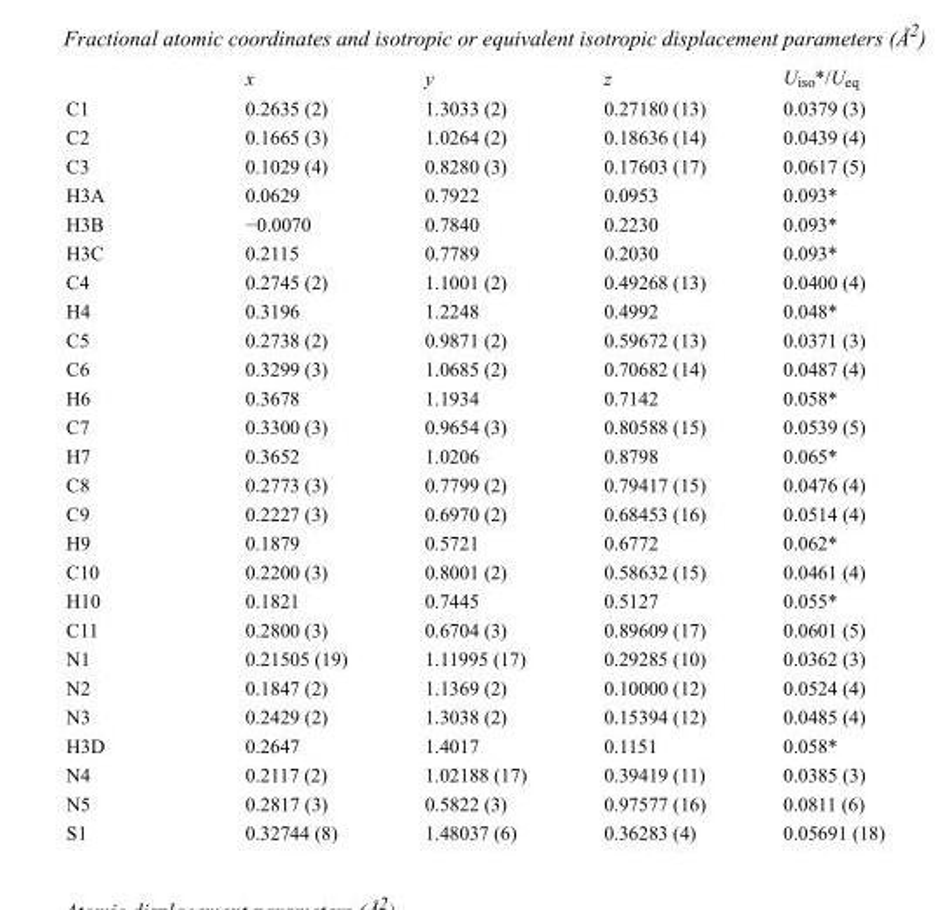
<table><thead><tr><td></td><td>x</td><td>y</td><td>z</td><td>U<sub>iso</sub>*/U<sub>eq</sub></td></tr></thead><tbody><tr><td>C1</td><td>0.2635 (2)</td><td>1.3033 (2)</td><td>0.27180 (13)</td><td>0.0379 (3)</td></tr><tr><td>C2</td><td>0.1665 (3)</td><td>1.0264 (2)</td><td>0.18636 (14)</td><td>0.0439 (4)</td></tr><tr><td>C3</td><td>0.1029 (4)</td><td>0.8280 (3)</td><td>0.17603 (17)</td><td>0.0617 (5)</td></tr><tr><td>H3A</td><td>0.0629</td><td>0.7922</td><td>0.0953</td><td>0.093*</td></tr><tr><td>H3B</td><td>−0.0070</td><td>0.7840</td><td>0.2230</td><td>0.093*</td></tr><tr><td>H3C</td><td>0.2115</td><td>0.7789</td><td>0.2030</td><td>0.093*</td></tr><tr><td>C4</td><td>0.2745 (2)</td><td>1.1001 (2)</td><td>0.49268 (13)</td><td>0.0400 (4)</td></tr><tr><td>H4</td><td>0.3196</td><td>1.2248</td><td>0.4992</td><td>0.048*</td></tr><tr><td>C5</td><td>0.2738 (2)</td><td>0.9871 (2)</td><td>0.59672 (13)</td><td>0.0371 (3)</td></tr><tr><td>C6</td><td>0.3299 (3)</td><td>1.0685 (2)</td><td>0.70682 (14)</td><td>0.0487 (4)</td></tr><tr><td>H6</td><td>0.3678</td><td>1.1934</td><td>0.7142</td><td>0.058*</td></tr><tr><td>C7</td><td>0.3300 (3)</td><td>0.9654 (3)</td><td>0.80588 (15)</td><td>0.0539 (5)</td></tr><tr><td>H7</td><td>0.3652</td><td>1.0206</td><td>0.8798</td><td>0.065*</td></tr><tr><td>C8</td><td>0.2773 (3)</td><td>0.7799 (2)</td><td>0.79417 (15)</td><td>0.0476 (4)</td></tr><tr><td>C9</td><td>0.2227 (3)</td><td>0.6970 (2)</td><td>0.68453 (16)</td><td>0.0514 (4)</td></tr><tr><td>H9</td><td>0.1879</td><td>0.5721</td><td>0.6772</td><td>0.062*</td></tr><tr><td>C10</td><td>0.2200 (3)</td><td>0.8001 (2)</td><td>0.58632 (15)</td><td>0.0461 (4)</td></tr><tr><td>H10</td><td>0.1821</td><td>0.7445</td><td>0.5127</td><td>0.055*</td></tr><tr><td>C11</td><td>0.2800 (3)</td><td>0.6704 (3)</td><td>0.89609 (17)</td><td>0.0601 (5)</td></tr><tr><td>N1</td><td>0.21505 (19)</td><td>1.11995 (17)</td><td>0.29285 (10)</td><td>0.0362 (3)</td></tr><tr><td>N2</td><td>0.1847 (2)</td><td>1.1369 (2)</td><td>0.10000 (12)</td><td>0.0524 (4)</td></tr><tr><td>N3</td><td>0.2429 (2)</td><td>1.3038 (2)</td><td>0.15394 (12)</td><td>0.0485 (4)</td></tr><tr><td>H3D</td><td>0.2647</td><td>1.4017</td><td>0.1151</td><td>0.058*</td></tr><tr><td>N4</td><td>0.2117 (2)</td><td>1.02188 (17)</td><td>0.39419 (11)</td><td>0.0385 (3)</td></tr><tr><td>N5</td><td>0.2817 (3)</td><td>0.5822 (3)</td><td>0.97577 (16)</td><td>0.0811 (6)</td></tr><tr><td>S1</td><td>0.32744 (8)</td><td>1.48037 (6)</td><td>0.36283 (4)</td><td>0.05691 (18)</td></tr></tbody></table>